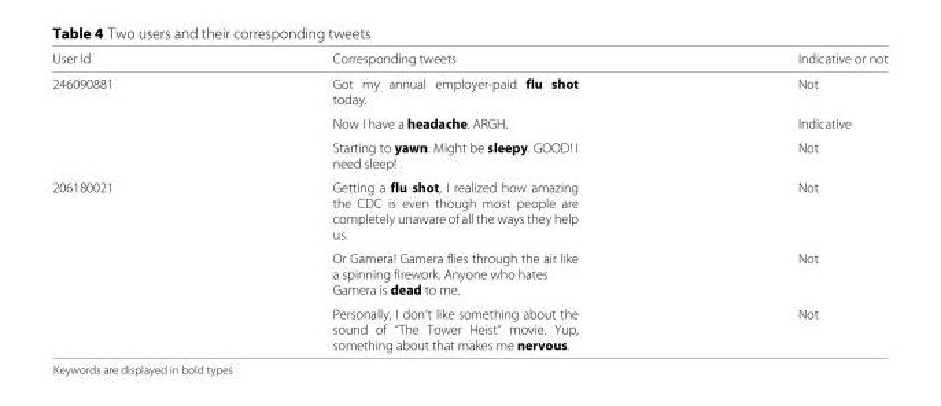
<table><thead><tr><td>User Id</td><td>Corresponding tweets</td><td>Indicative or not</td></tr></thead><tbody><tr><td rowspan="3">246090881</td><td>Got my annual employer-paid flu shot today.</td><td>Not</td></tr><tr><td>Now I have a headache. ARGH.</td><td>Indicative</td></tr><tr><td>Starting to yawn. Might be sleepy. GOOD! I need sleep!</td><td>Not</td></tr><tr><td rowspan="3">206180021</td><td>Getting a flu shot, I realized how amazing the CDC is even though most people are completely unaware of all the ways they help us.</td><td>Not</td></tr><tr><td>Or Gamera! Gamera flies through the air like a spinning firework. Anyone who hates Gamera is dead to me.</td><td>Not</td></tr><tr><td>Personally, I don’t like something about the sound of “The Tower Heist” movie. Yup, something about that makes me nervous.</td><td>Not</td></tr></tbody></table>